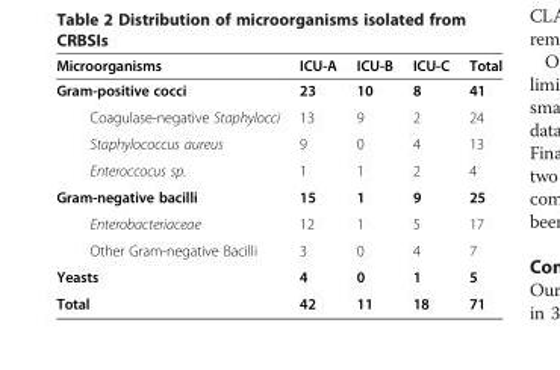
<table><thead><tr><td>Microorganisms</td><td>ICU-A</td><td>ICU-B</td><td>ICU-C</td><td>Total</td></tr></thead><tbody><tr><td>Gram-positive cocci</td><td>23</td><td>10</td><td>8</td><td>41</td></tr><tr><td>Coagulase-negative Staphylocci</td><td>13</td><td>9</td><td>2</td><td>24</td></tr><tr><td>Staphylococcus aureus</td><td>9</td><td>0</td><td>4</td><td>13</td></tr><tr><td>Enteroccocus sp.</td><td>1</td><td>1</td><td>2</td><td>4</td></tr><tr><td>Gram-negative bacilli</td><td>15</td><td>1</td><td>9</td><td>25</td></tr><tr><td>Enterobacteriaceae</td><td>12</td><td>1</td><td>5</td><td>17</td></tr><tr><td>Other Gram-negative Bacilli</td><td>3</td><td>0</td><td>4</td><td>7</td></tr><tr><td>Yeasts</td><td>4</td><td>0</td><td>1</td><td>5</td></tr><tr><td>Total</td><td>42</td><td>11</td><td>18</td><td>71</td></tr></tbody></table>